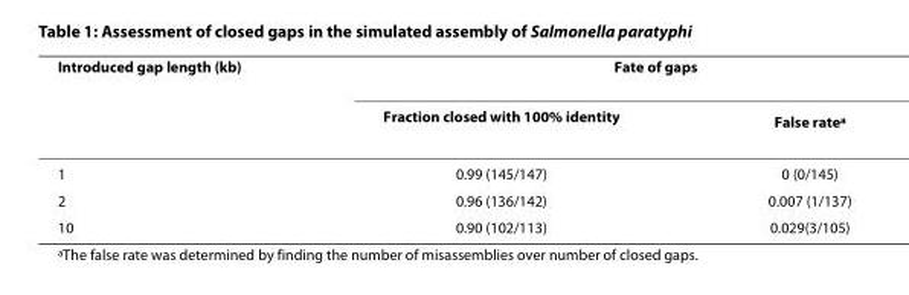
<table><thead><tr><td rowspan="2">Introduced gap length (kb)</td><td colspan="2">Fate of gaps</td></tr><tr><td>Fraction closed with 100% identity</td><td>False rate<sup>a</sup></td></tr></thead><tbody><tr><td>1</td><td>0.99 (145/147)</td><td>0 (0/145)</td></tr><tr><td>2</td><td>0.96 (136/142)</td><td>0.007 (1/137)</td></tr><tr><td>10</td><td>0.90 (102/113)</td><td>0.029(3/105)</td></tr></tbody></table>